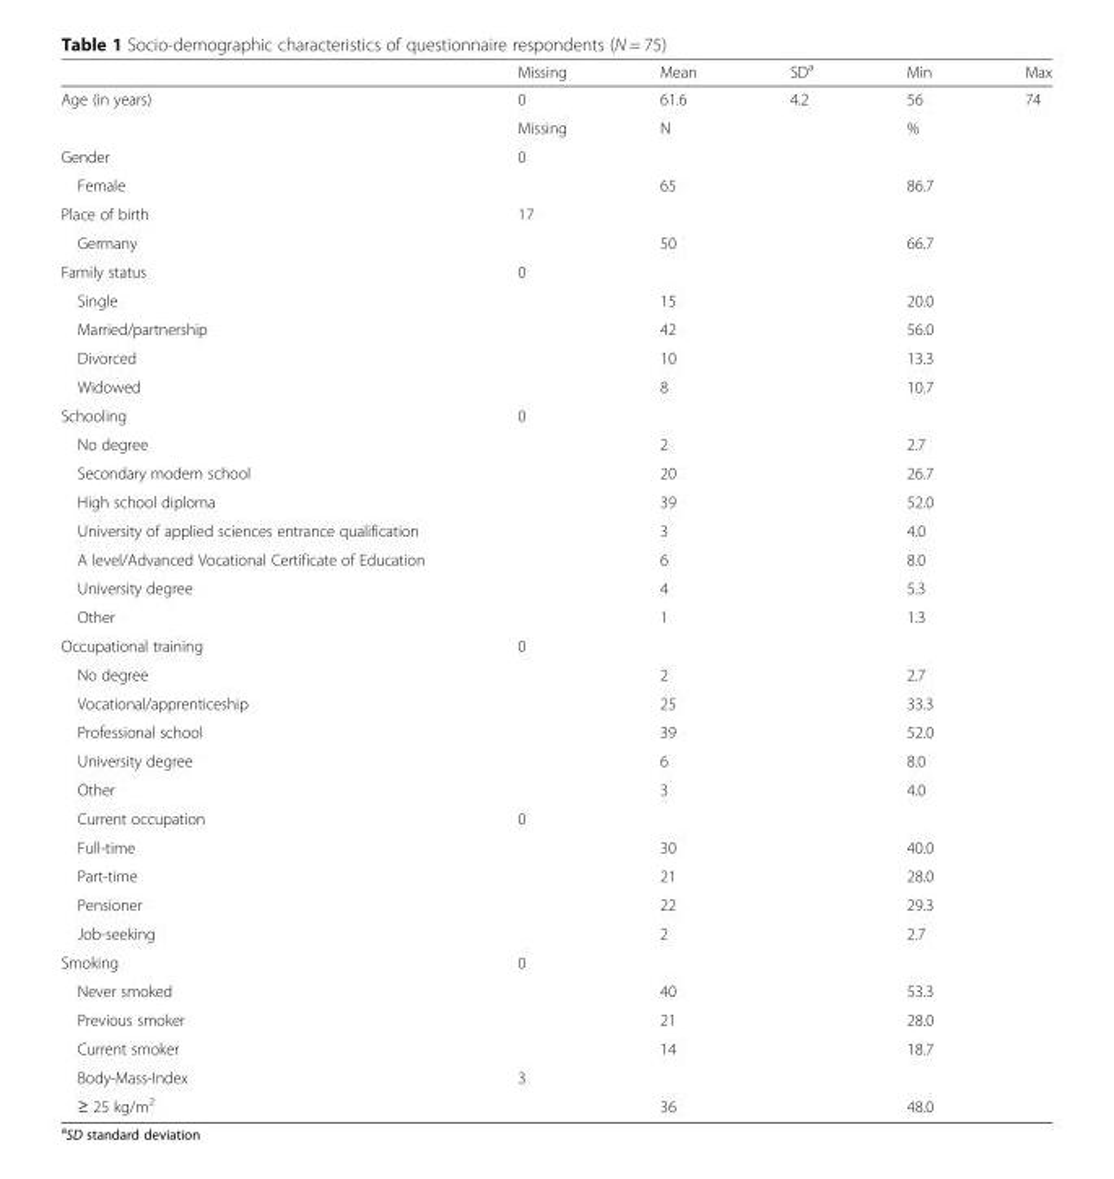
<table><thead><tr><td></td><td>Missing</td><td>Mean</td><td>SD<sup>a</sup></td><td>Min</td><td>Max</td></tr></thead><tbody><tr><td rowspan="2">Age (in years)</td><td>0</td><td>61.6</td><td>4.2</td><td>56</td><td>74</td></tr><tr><td>Missing</td><td colspan="2">N</td><td colspan="2">%</td></tr><tr><td>Gender</td><td>0</td><td colspan="2"></td><td colspan="2"></td></tr><tr><td>Female</td><td></td><td colspan="2">65</td><td colspan="2">86.7</td></tr><tr><td>Place of birth</td><td>17</td><td colspan="2"></td><td colspan="2"></td></tr><tr><td>Germany</td><td></td><td colspan="2">50</td><td colspan="2">66.7</td></tr><tr><td>Family status</td><td>0</td><td colspan="2"></td><td colspan="2"></td></tr><tr><td>Single</td><td></td><td colspan="2">15</td><td colspan="2">20.0</td></tr><tr><td>Married/partnership</td><td></td><td colspan="2">42</td><td colspan="2">56.0</td></tr><tr><td>Divorced</td><td></td><td colspan="2">10</td><td colspan="2">13.3</td></tr><tr><td>Widowed</td><td></td><td colspan="2">8</td><td colspan="2">10.7</td></tr><tr><td>Schooling</td><td>0</td><td colspan="2"></td><td colspan="2"></td></tr><tr><td>No degree</td><td></td><td colspan="2">2</td><td colspan="2">2.7</td></tr><tr><td>Secondary modern school</td><td></td><td colspan="2">20</td><td colspan="2">26.7</td></tr><tr><td>High school diploma</td><td></td><td colspan="2">39</td><td colspan="2">52.0</td></tr><tr><td>University of applied sciences entrance qualification</td><td></td><td colspan="2">3</td><td colspan="2">4.0</td></tr><tr><td>A level/Advanced Vocational Certificate of Education</td><td></td><td colspan="2">6</td><td colspan="2">8.0</td></tr><tr><td>University degree</td><td></td><td colspan="2">4</td><td colspan="2">5.3</td></tr><tr><td>Other</td><td></td><td colspan="2">1</td><td colspan="2">1.3</td></tr><tr><td>Occupational training</td><td>0</td><td colspan="2"></td><td colspan="2"></td></tr><tr><td>No degree</td><td></td><td colspan="2">2</td><td colspan="2">2.7</td></tr><tr><td>Vocational/apprenticeship</td><td></td><td colspan="2">25</td><td colspan="2">33.3</td></tr><tr><td>Professional school</td><td></td><td colspan="2">39</td><td colspan="2">52.0</td></tr><tr><td>University degree</td><td></td><td colspan="2">6</td><td colspan="2">8.0</td></tr><tr><td>Other</td><td></td><td colspan="2">3</td><td colspan="2">4.0</td></tr><tr><td>Current occupation</td><td>0</td><td colspan="2"></td><td colspan="2"></td></tr><tr><td>Full-time</td><td></td><td colspan="2">30</td><td colspan="2">40.0</td></tr><tr><td>Part-time</td><td></td><td colspan="2">21</td><td colspan="2">28.0</td></tr><tr><td>Pensioner</td><td></td><td colspan="2">22</td><td colspan="2">29.3</td></tr><tr><td>Job-seeking</td><td></td><td colspan="2">2</td><td colspan="2">2.7</td></tr><tr><td>Smoking</td><td>0</td><td colspan="2"></td><td colspan="2"></td></tr><tr><td>Never smoked</td><td></td><td colspan="2">40</td><td colspan="2">53.3</td></tr><tr><td>Previous smoker</td><td></td><td colspan="2">21</td><td colspan="2">28.0</td></tr><tr><td>Current smoker</td><td></td><td colspan="2">14</td><td colspan="2">18.7</td></tr><tr><td>Body-Mass-Index</td><td>3</td><td colspan="2"></td><td colspan="2"></td></tr><tr><td>≥ 25 kg/m<sup>2</sup></td><td></td><td colspan="2">36</td><td colspan="2">48.0</td></tr></tbody></table>